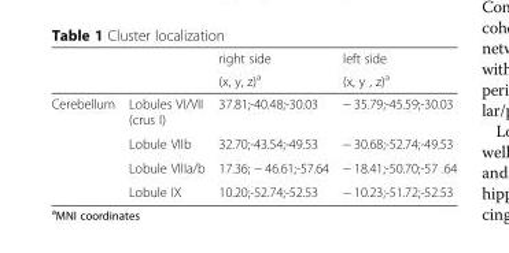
<table><thead><tr><td rowspan="2"></td><td rowspan="2"></td><td rowspan="2">right side (x, y, z)<sup>a</sup></td><td rowspan="2">left side (x, y , z)<sup>a</sup></td></tr><tr></tr></thead><tbody><tr><td rowspan="4">Cerebellum</td><td>Lobules VI/VII (crus I)</td><td>37.81;-40.48;-30.03</td><td>− 35.79;-45.59;-30.03</td></tr><tr><td>Lobule VIIb</td><td>32.70;-43.54;-49.53</td><td>− 30.68;-52.74;-49.53</td></tr><tr><td>Lobule VIIIa/b</td><td>17.36; − 46.61;-57.64</td><td>− 18.41;-50.70;-57 .64</td></tr><tr><td>Lobule IX</td><td>10.20;-52.74;-52.53</td><td>− 10.23;-51.72;-52.53</td></tr></tbody></table>